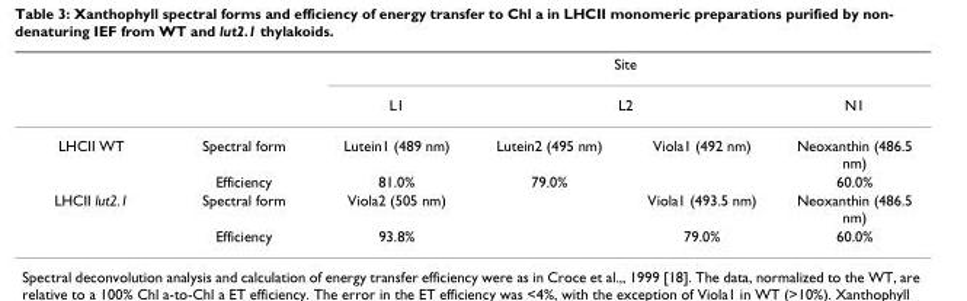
<table><thead><tr><td rowspan="3">LHCII WT</td><td rowspan="3">Spectral form</td><td colspan="4">Site</td></tr><tr><td rowspan="2">L1 Lutein1 (489 nm)</td><td colspan="2">L2</td><td rowspan="2">N1 Neoxanthin (486.5 nm)</td></tr><tr><td>Lutein2 (495 nm)</td><td>Viola1 (492 nm)</td></tr></thead><tbody><tr><td></td><td>Efficiency</td><td>81.0%</td><td>79.0%</td><td></td><td>60.0%</td></tr><tr><td rowspan="2">LHCII lut2.1</td><td>Spectral form</td><td>Viola2 (505 nm)</td><td></td><td>Viola1 (493.5 nm)</td><td>Neoxanthin (486.5 nm)</td></tr><tr><td>Efficiency</td><td>93.8%</td><td></td><td>79.0%</td><td>60.0%</td></tr></tbody></table>